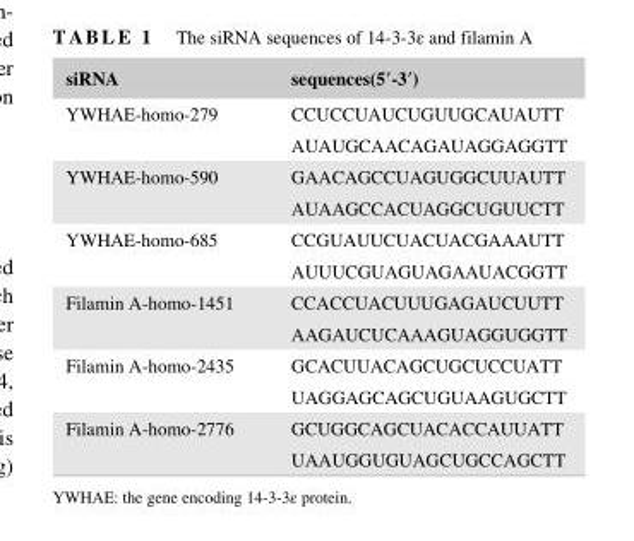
<table><thead><tr><td>siRNA</td><td>sequences(5′- 3′)</td></tr></thead><tbody><tr><td rowspan="2">YWHAE- homo- 279</td><td>CCUCCUAUCUGUUGCAUAUTT</td></tr><tr><td>AUAUGCAACAGAUAGGAGGTT</td></tr><tr><td rowspan="2">YWHAE- homo- 590</td><td>GAACAGCCUAGUGGCUUAUTT</td></tr><tr><td>AUAAGCCACUAGGCUGUUCTT</td></tr><tr><td rowspan="2">YWHAE- homo- 685</td><td>CCGUAUUCUACUACGAAAUTT</td></tr><tr><td>AUUUCGUAGUAGAAUACGGTT</td></tr><tr><td rowspan="2">Filamin A- homo- 1451</td><td>CCACCUACUUUGAGAUCUUTT</td></tr><tr><td>AAGAUCUCAAAGUAGGUGGTT</td></tr><tr><td rowspan="2">Filamin A- homo- 2435</td><td>GCACUUACAGCUGCUCCUATT</td></tr><tr><td>UAGGAGCAGCUGUAAGUGCTT</td></tr><tr><td rowspan="2">Filamin A- homo- 2776</td><td>GCUGGCAGCUACACCAUUATT</td></tr><tr><td>UAAUGGUGUAGCUGCCAGCTT</td></tr></tbody></table>